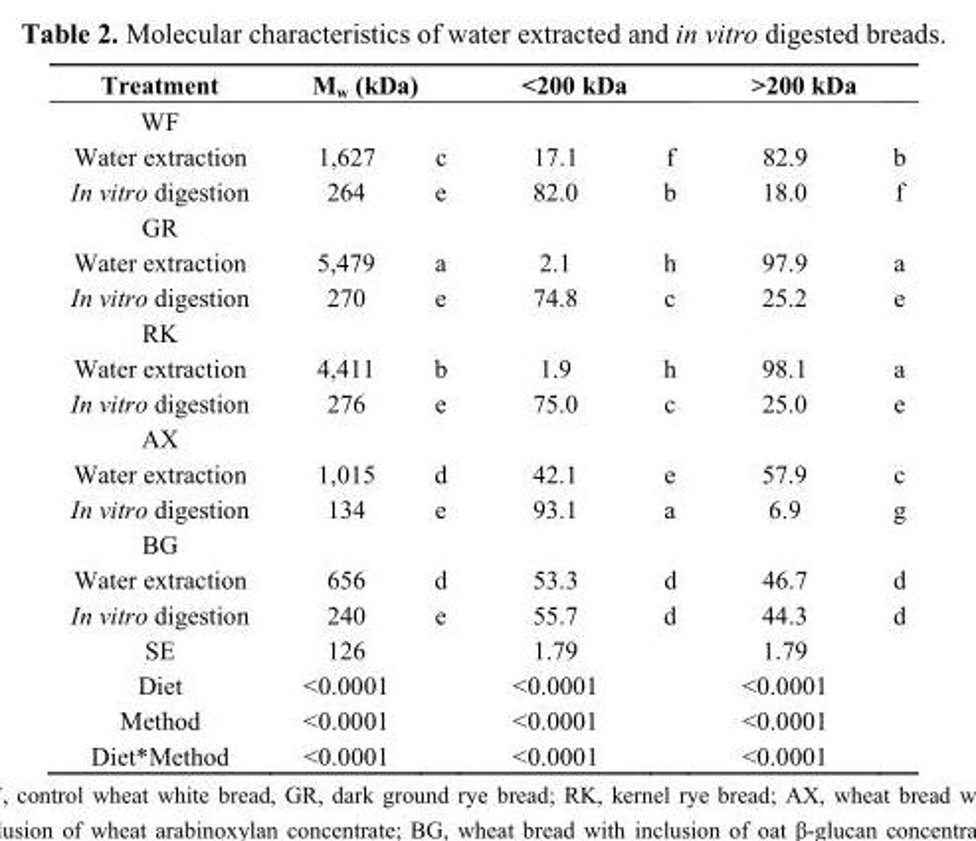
<table><thead><tr><td>Treatment</td><td>M<sub>w</sub> (kDa)</td><td></td><td>&lt;200 kDa</td><td></td><td>&gt;200 kDa</td><td></td></tr></thead><tbody><tr><td colspan="7">WF</td></tr><tr><td>Water extraction</td><td>1,627</td><td>c</td><td>17.1</td><td>f</td><td>82.9</td><td>b</td></tr><tr><td>In vitro digestion</td><td>264</td><td>e</td><td>82.0</td><td>b</td><td>18.0</td><td>f</td></tr><tr><td colspan="7">GR</td></tr><tr><td>Water extraction</td><td>5,479</td><td>a</td><td>2.1</td><td>h</td><td>97.9</td><td>a</td></tr><tr><td>In vitro digestion</td><td>270</td><td>e</td><td>74.8</td><td>c</td><td>25.2</td><td>e</td></tr><tr><td colspan="7">RK</td></tr><tr><td>Water extraction</td><td>4,411</td><td>b</td><td>1.9</td><td>h</td><td>98.1</td><td>a</td></tr><tr><td>In vitro digestion</td><td>276</td><td>e</td><td>75.0</td><td>c</td><td>25.0</td><td>e</td></tr><tr><td colspan="7">AX</td></tr><tr><td>Water extraction</td><td>1,015</td><td>d</td><td>42.1</td><td>e</td><td>57.9</td><td>c</td></tr><tr><td>In vitro digestion</td><td>134</td><td>e</td><td>93.1</td><td>a</td><td>6.9</td><td>g</td></tr><tr><td colspan="7">BG</td></tr><tr><td>Water extraction</td><td>656</td><td>d</td><td>53.3</td><td>d</td><td>46.7</td><td>d</td></tr><tr><td>In vitro digestion</td><td>240</td><td>e</td><td>55.7</td><td>d</td><td>44.3</td><td>d</td></tr><tr><td>SE</td><td>126</td><td></td><td>1.79</td><td></td><td>1.79</td><td></td></tr><tr><td>Diet</td><td>&lt;0.0001</td><td></td><td>&lt;0.0001</td><td></td><td>&lt;0.0001</td><td></td></tr><tr><td>Method</td><td>&lt;0.0001</td><td></td><td>&lt;0.0001</td><td></td><td>&lt;0.0001</td><td></td></tr><tr><td>Diet*Method</td><td>&lt;0.0001</td><td></td><td>&lt;0.0001</td><td></td><td>&lt;0.0001</td><td></td></tr></tbody></table>